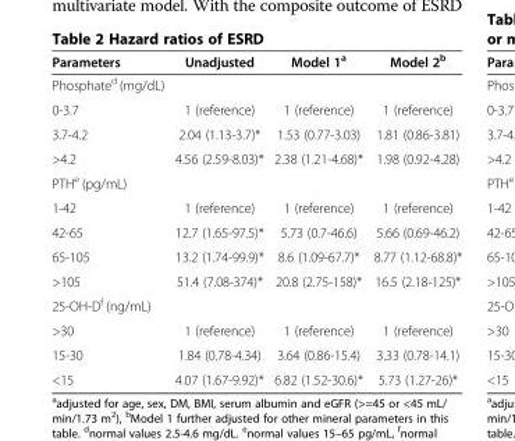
<table><thead><tr><td>Parameters</td><td>Unadjusted</td><td>Model 1<sup>a</sup></td><td>Model 2<sup>b</sup></td></tr></thead><tbody><tr><td colspan="4">Phosphate<sup>d</sup> (mg/dL)</td></tr><tr><td>0-3.7</td><td>1 (reference)</td><td>1 (reference)</td><td>1 (reference)</td></tr><tr><td>3.7-4.2</td><td>2.04 (1.13-3.7)*</td><td>1.53 (0.77-3.03)</td><td>1.81 (0.86-3.81)</td></tr><tr><td>&gt;4.2</td><td>4.56 (2.59-8.03)*</td><td>2.38 (1.21-4.68)*</td><td>1.98 (0.92-4.28)</td></tr><tr><td colspan="4">PTH<sup>e</sup> (pg/mL)</td></tr><tr><td>1-42</td><td>1 (reference)</td><td>1 (reference)</td><td>1 (reference)</td></tr><tr><td>42-65</td><td>12.7 (1.65-97.5)*</td><td>5.73 (0.7-46.6)</td><td>5.66 (0.69-46.2)</td></tr><tr><td>65-105</td><td>13.2 (1.74-99.9)*</td><td>8.6 (1.09-67.7)*</td><td>8.77 (1.12-68.8)*</td></tr><tr><td>&gt;105</td><td>51.4 (7.08-374)*</td><td>20.8 (2.75-158)*</td><td>16.5 (2.18-125)*</td></tr><tr><td colspan="4">25-OH-D<sup>f</sup> (ng/mL)</td></tr><tr><td>&gt;30</td><td>1 (reference)</td><td>1 (reference)</td><td>1 (reference)</td></tr><tr><td>15-30</td><td>1.84 (0.78-4.34)</td><td>3.64 (0.86-15.4)</td><td>3.33 (0.78-14.1)</td></tr><tr><td>&lt;15</td><td>4.07 (1.67-9.92)*</td><td>6.82 (1.52-30.6)*</td><td>5.73 (1.27-26)*</td></tr></tbody></table>